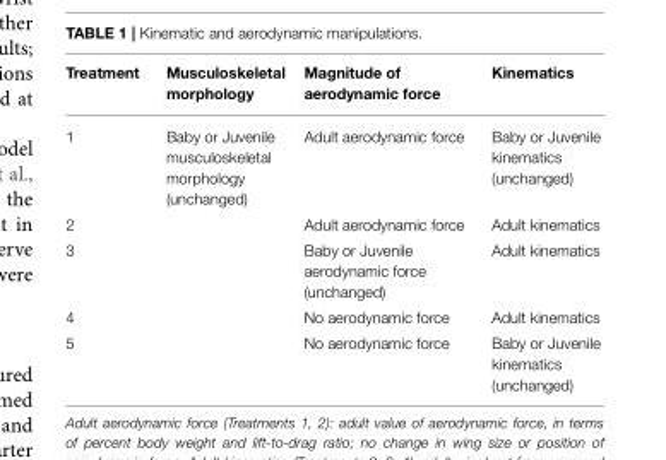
<table><thead><tr><td>Treatment</td><td>Musculoskeletal morphology</td><td>Magnitude of aerodynamic force</td><td>Kinematics</td></tr></thead><tbody><tr><td>1</td><td>Baby or Juvenile musculoskeletal morphology (unchanged)</td><td>Adult aerodynamic force</td><td>Baby or Juvenile kinematics (unchanged)</td></tr><tr><td>2</td><td></td><td>Adult aerodynamic force</td><td>Adult kinematics</td></tr><tr><td>3</td><td></td><td>Baby or Juvenile aerodynamic force (unchanged)</td><td>Adult kinematics</td></tr><tr><td>4</td><td></td><td>No aerodynamic force</td><td>Adult kinematics</td></tr><tr><td>5</td><td></td><td>No aerodynamic force</td><td>Baby or Juvenile kinematics (unchanged)</td></tr></tbody></table>